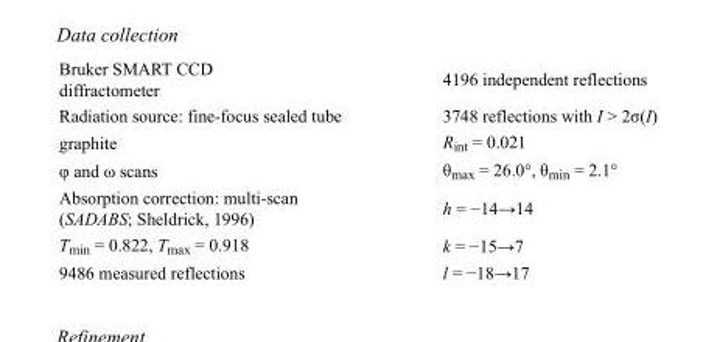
<table><tbody><tr><td>Bruker SMART CCD diffractometer</td><td>4196 independent reflections</td></tr><tr><td>Radiation source: fine-focus sealed tube</td><td>3748 reflections with I &gt; 2σ(I)</td></tr><tr><td>graphite</td><td>R<sub>int</sub> = 0.021</td></tr><tr><td>φ and ω scans</td><td>θ<sub>max</sub> = 26.0°, θ<sub>min</sub> = 2.1°</td></tr><tr><td>Absorption correction: multi-scan (SADABS; Sheldrick, 1996)</td><td>h = −14→14</td></tr><tr><td>T<sub>min</sub> = 0.822, T<sub>max</sub> = 0.918</td><td>k = −15→7</td></tr><tr><td>9486 measured reflections</td><td>l = −18→17</td></tr></tbody></table>